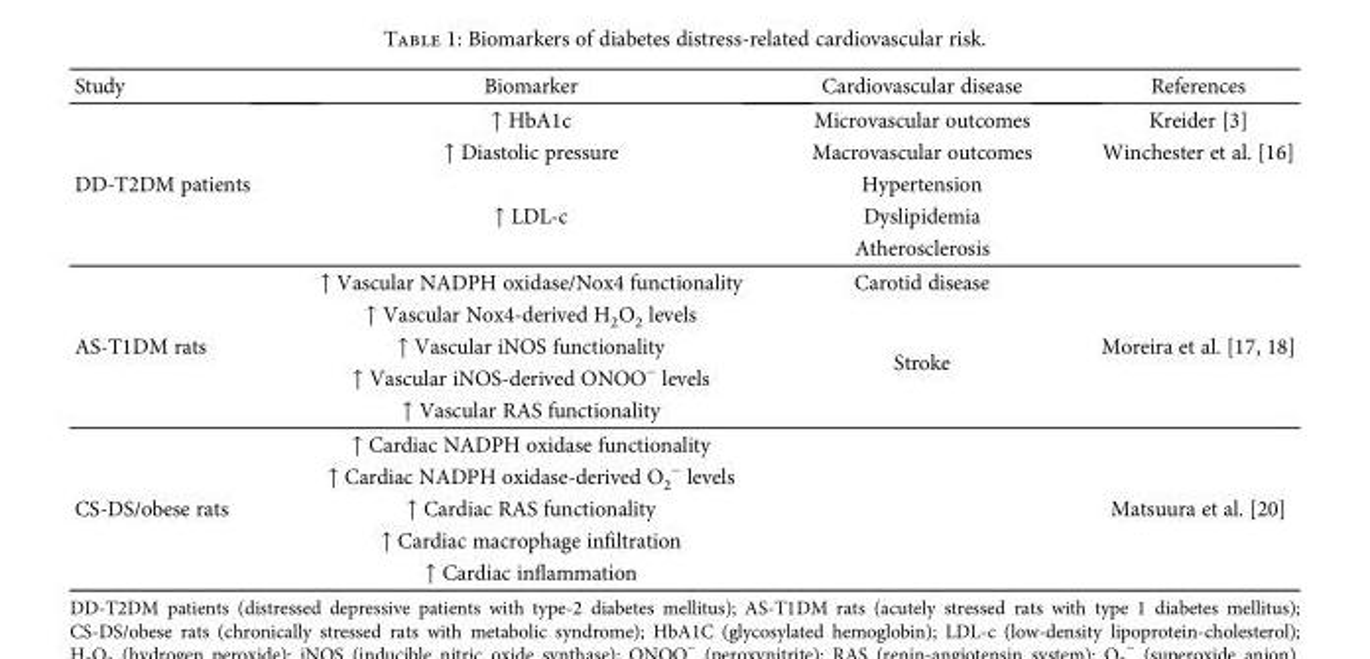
<table><thead><tr><td>Study</td><td>Biomarker</td><td>Cardiovascular disease</td><td>References</td></tr></thead><tbody><tr><td rowspan="5">DD-T2DM patients</td><td>↑ HbA1c</td><td>Microvascular outcomes</td><td>Kreider [3]</td></tr><tr><td>↑ Diastolic pressure</td><td>Macrovascular outcomes</td><td>Winchester et al. [16]</td></tr><tr><td rowspan="3">↑ LDL-c</td><td>Hypertension</td><td rowspan="3"></td></tr><tr><td>Dyslipidemia</td></tr><tr><td>Atherosclerosis</td></tr><tr><td rowspan="5">AS-T1DM rats</td><td>↑ Vascular NADPH oxidase/Nox4 functionality</td><td>Carotid disease</td><td rowspan="5">Moreira et al. [17, 18]</td></tr><tr><td>↑ Vascular Nox4-derived H<sub>2</sub>O<sub>2</sub> levels</td><td rowspan="4">Stroke</td></tr><tr><td>↑ Vascular iNOS functionality</td></tr><tr><td>↑ Vascular iNOS-derived ONOO<sup>−</sup> levels</td></tr><tr><td>↑ Vascular RAS functionality</td></tr><tr><td rowspan="5">CS-DS/obese rats</td><td>↑ Cardiac NADPH oxidase functionality</td><td rowspan="5"></td><td rowspan="5">Matsuura et al. [20]</td></tr><tr><td>↑ Cardiac NADPH oxidase-derived O<sub>2</sub> <sup>−</sup> levels</td></tr><tr><td>↑ Cardiac RAS functionality</td></tr><tr><td>↑ Cardiac macrophage infiltration</td></tr><tr><td>↑ Cardiac inflammation</td></tr></tbody></table>